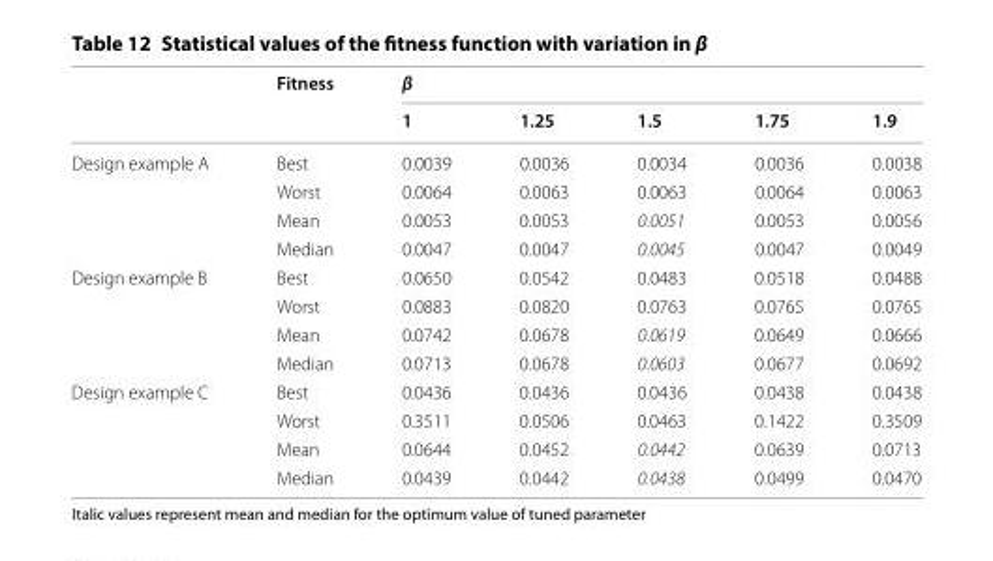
<table><thead><tr><td rowspan="2"></td><td rowspan="2">Fitness</td><td colspan="5">β</td></tr><tr><td>1</td><td>1.25</td><td>1.5</td><td>1.75</td><td>1.9</td></tr></thead><tbody><tr><td rowspan="4">Design example A</td><td>Best</td><td>0.0039</td><td>0.0036</td><td>0.0034</td><td>0.0036</td><td>0.0038</td></tr><tr><td>Worst</td><td>0.0064</td><td>0.0063</td><td>0.0063</td><td>0.0064</td><td>0.0063</td></tr><tr><td>Mean</td><td>0.0053</td><td>0.0053</td><td>0.0051</td><td>0.0053</td><td>0.0056</td></tr><tr><td>Median</td><td>0.0047</td><td>0.0047</td><td>0.0045</td><td>0.0047</td><td>0.0049</td></tr><tr><td rowspan="4">Design example B</td><td>Best</td><td>0.0650</td><td>0.0542</td><td>0.0483</td><td>0.0518</td><td>0.0488</td></tr><tr><td>Worst</td><td>0.0883</td><td>0.0820</td><td>0.0763</td><td>0.0765</td><td>0.0765</td></tr><tr><td>Mean</td><td>0.0742</td><td>0.0678</td><td>0.0619</td><td>0.0649</td><td>0.0666</td></tr><tr><td>Median</td><td>0.0713</td><td>0.0678</td><td>0.0603</td><td>0.0677</td><td>0.0692</td></tr><tr><td rowspan="4">Design example C</td><td>Best</td><td>0.0436</td><td>0.0436</td><td>0.0436</td><td>0.0438</td><td>0.0438</td></tr><tr><td>Worst</td><td>0.3511</td><td>0.0506</td><td>0.0463</td><td>0.1422</td><td>0.3509</td></tr><tr><td>Mean</td><td>0.0644</td><td>0.0452</td><td>0.0442</td><td>0.0639</td><td>0.0713</td></tr><tr><td>Median</td><td>0.0439</td><td>0.0442</td><td>0.0438</td><td>0.0499</td><td>0.0470</td></tr></tbody></table>